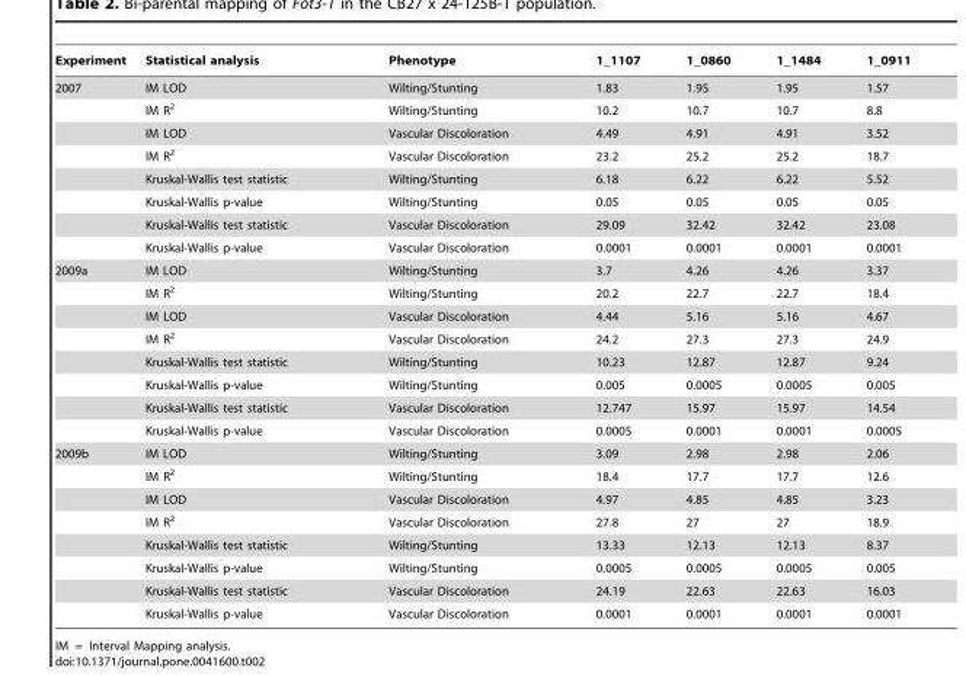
<table><thead><tr><td>Experiment</td><td>Statistical analysis</td><td>Phenotype</td><td>1_1107</td><td>1_0860</td><td>1_1484</td><td>1_0911</td></tr></thead><tbody><tr><td rowspan="8">2007</td><td>IM LOD</td><td>Wilting/Stunting</td><td>1.83</td><td>1.95</td><td>1.95</td><td>1.57</td></tr><tr><td>IM R<sup>2</sup></td><td>Wilting/Stunting</td><td>10.2</td><td>10.7</td><td>10.7</td><td>8.8</td></tr><tr><td>IM LOD</td><td>Vascular Discoloration</td><td>4.49</td><td>4.91</td><td>4.91</td><td>3.52</td></tr><tr><td>IM R<sup>2</sup></td><td>Vascular Discoloration</td><td>23.2</td><td>25.2</td><td>25.2</td><td>18.7</td></tr><tr><td>Kruskal-Wallis test statistic</td><td>Wilting/Stunting</td><td>6.18</td><td>6.22</td><td>6.22</td><td>5.52</td></tr><tr><td>Kruskal-Wallis p-value</td><td>Wilting/Stunting</td><td>0.05</td><td>0.05</td><td>0.05</td><td>0.05</td></tr><tr><td>Kruskal-Wallis test statistic</td><td>Vascular Discoloration</td><td>29.09</td><td>32.42</td><td>32.42</td><td>23.08</td></tr><tr><td>Kruskal-Wallis p-value</td><td>Vascular Discoloration</td><td>0.0001</td><td>0.0001</td><td>0.0001</td><td>0.0001</td></tr><tr><td rowspan="8">2009a</td><td>IM LOD</td><td>Wilting/Stunting</td><td>3.7</td><td>4.26</td><td>4.26</td><td>3.37</td></tr><tr><td>IM R<sup>2</sup></td><td>Wilting/Stunting</td><td>20.2</td><td>22.7</td><td>22.7</td><td>18.4</td></tr><tr><td>IM LOD</td><td>Vascular Discoloration</td><td>4.44</td><td>5.16</td><td>5.16</td><td>4.67</td></tr><tr><td>IM R<sup>2</sup></td><td>Vascular Discoloration</td><td>24.2</td><td>27.3</td><td>27.3</td><td>24.9</td></tr><tr><td>Kruskal-Wallis test statistic</td><td>Wilting/Stunting</td><td>10.23</td><td>12.87</td><td>12.87</td><td>9.24</td></tr><tr><td>Kruskal-Wallis p-value</td><td>Wilting/Stunting</td><td>0.005</td><td>0.0005</td><td>0.0005</td><td>0.005</td></tr><tr><td>Kruskal-Wallis test statistic</td><td>Vascular Discoloration</td><td>12.747</td><td>15.97</td><td>15.97</td><td>14.54</td></tr><tr><td>Kruskal-Wallis p-value</td><td>Vascular Discoloration</td><td>0.0005</td><td>0.0001</td><td>0.0001</td><td>0.0005</td></tr><tr><td rowspan="8">2009b</td><td>IM LOD</td><td>Wilting/Stunting</td><td>3.09</td><td>2.98</td><td>2.98</td><td>2.06</td></tr><tr><td>IM R<sup>2</sup></td><td>Wilting/Stunting</td><td>18.4</td><td>17.7</td><td>17.7</td><td>12.6</td></tr><tr><td>IM LOD</td><td>Vascular Discoloration</td><td>4.97</td><td>4.85</td><td>4.85</td><td>3.23</td></tr><tr><td>IM R<sup>2</sup></td><td>Vascular Discoloration</td><td>27.8</td><td>27</td><td>27</td><td>18.9</td></tr><tr><td>Kruskal-Wallis test statistic</td><td>Wilting/Stunting</td><td>13.33</td><td>12.13</td><td>12.13</td><td>8.37</td></tr><tr><td>Kruskal-Wallis p-value</td><td>Wilting/Stunting</td><td>0.0005</td><td>0.0005</td><td>0.0005</td><td>0.005</td></tr><tr><td>Kruskal-Wallis test statistic</td><td>Vascular Discoloration</td><td>24.19</td><td>22.63</td><td>22.63</td><td>16.03</td></tr><tr><td>Kruskal-Wallis p-value</td><td>Vascular Discoloration</td><td>0.0001</td><td>0.0001</td><td>0.0001</td><td>0.0001</td></tr></tbody></table>